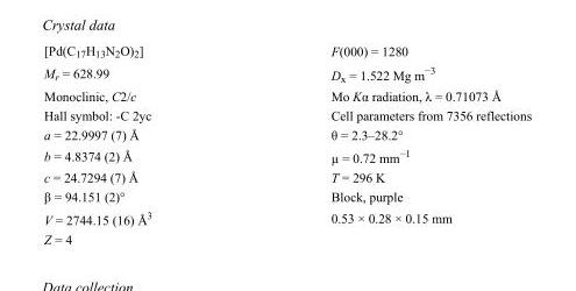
<table><tbody><tr><td>[Pd(C<sub>17</sub>H<sub>13</sub>N<sub>2</sub>O)<sub>2</sub>]</td><td>F(000) = 1280</td></tr><tr><td>M<sub>r</sub> = 628.99</td><td>D<sub>x</sub> = 1.522 Mg m<sup>−3</sup></td></tr><tr><td>Monoclinic, C2/c</td><td>Mo Kα radiation, λ = 0.71073 Å</td></tr><tr><td>Hall symbol: -C 2yc</td><td>Cell parameters from 7356 reflections</td></tr><tr><td>a = 22.9997 (7) Å</td><td>θ = 2.3–28.2°</td></tr><tr><td>b = 4.8374 (2) Å</td><td>µ = 0.72 mm<sup>−1</sup></td></tr><tr><td>c = 24.7294 (7) Å</td><td>T = 296 K</td></tr><tr><td>β = 94.151 (2)°</td><td>Block, purple</td></tr><tr><td>V = 2744.15 (16) Å<sup>3</sup></td><td>0.53 × 0.28 × 0.15 mm</td></tr><tr><td>Z = 4</td><td></td></tr></tbody></table>